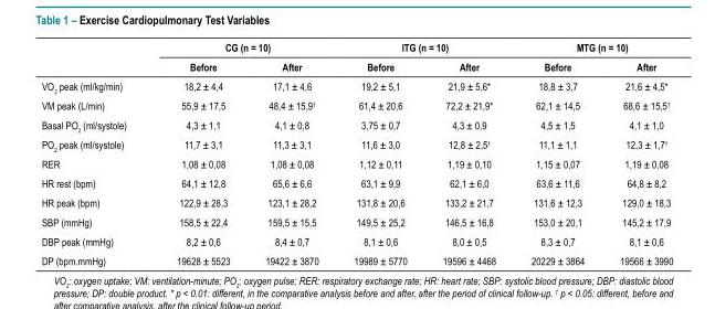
<table><thead><tr><td rowspan="2"></td><td colspan="2">CG (n = 10)</td><td colspan="2">ITG (n = 10)</td><td colspan="2">MTG (n = 10)</td></tr><tr><td>Before</td><td>After</td><td>Before</td><td>After</td><td>Before</td><td>After</td></tr></thead><tbody><tr><td>VO<sub>2</sub> peak (ml/kg/min)</td><td>18,2 ± 4,4</td><td>17,1 ± 4,6</td><td>19,2 ± 5,1</td><td>21,9 ± 5,6*</td><td>18,8 ± 3,7</td><td>21,6 ± 4,5*</td></tr><tr><td>VM peak (L/min)</td><td>55,9 ± 17,5</td><td>48,4 ± 15,9<sup>†</sup></td><td>61,4 ± 20,6</td><td>72,2 ± 21,9*</td><td>62,1 ± 14,5</td><td>68,6 ± 15,5<sup>†</sup></td></tr><tr><td>Basal PO<sub>2</sub> (ml/systole)</td><td>4,3 ± 1,1</td><td>4,1 ± 0,8</td><td>3,75 ± 0,7</td><td>4,3 ± 0,9</td><td>4,5 ± 1,5</td><td>4,1 ± 1,0</td></tr><tr><td>PO<sub>2</sub> peak (ml/systole)</td><td>11,7 ± 3,1</td><td>11,3 ± 3,1</td><td>11,6 ± 3,0</td><td>12,8 ± 2,5<sup>†</sup></td><td>11,1 ± 1,1</td><td>12,3 ± 1,7<sup>†</sup></td></tr><tr><td>RER</td><td>1,08 ± 0,08</td><td>1,08 ± 0,08</td><td>1,12 ± 0,11</td><td>1,19 ± 0,10</td><td>1,15 ± 0,07</td><td>1,19 ± 0,08</td></tr><tr><td>HR rest (bpm)</td><td>64,1 ± 12,8</td><td>65,6 ± 6,6</td><td>63,1 ± 9,9</td><td>62,1 ± 6,0</td><td>63,6 ± 11,6</td><td>64,8 ± 8,2</td></tr><tr><td>HR peak (bpm)</td><td>122,9 ± 28,3</td><td>123,1 ± 28,2</td><td>131,8 ± 20,6</td><td>133,2 ± 21,7</td><td>131,6 ± 12,3</td><td>129,0 ± 18,3</td></tr><tr><td>SBP (mmHg)</td><td>158,5 ± 22,4</td><td>159,5 ± 15,5</td><td>149,5 ± 25,2</td><td>146,5 ± 16,8</td><td>153,0 ± 20,1</td><td>145,2 ± 17,9</td></tr><tr><td>DBP peak (mmHg)</td><td>8,2 ± 0,6</td><td>8,4 ± 0,7</td><td>8,1 ± 0,6</td><td>8,0 ± 0,5</td><td>8,3 ± 0,7</td><td>8,1 ± 0,6</td></tr><tr><td>DP (bpm.mmHg)</td><td>19628 ± 5523</td><td>19422 ± 3870</td><td>19989 ± 5770</td><td>19596 ± 4468</td><td>20229 ± 3864</td><td>19566 ± 3990</td></tr></tbody></table>